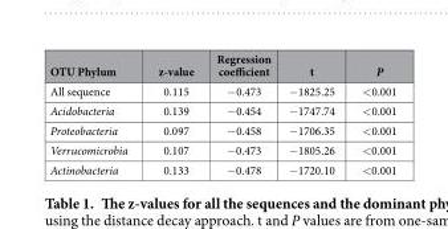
<table><thead><tr><td>OTU Phylum</td><td>z-value</td><td>Regression coefficient</td><td>t</td><td>P</td></tr></thead><tbody><tr><td>All sequence</td><td>0.115</td><td>− 0.473</td><td>− 1825.25</td><td>&lt; 0.001</td></tr><tr><td>Acidobacteria</td><td>0.139</td><td>− 0.454</td><td>− 1747.74</td><td>&lt; 0.001</td></tr><tr><td>Proteobacteria</td><td>0.097</td><td>− 0.458</td><td>− 1706.35</td><td>&lt; 0.001</td></tr><tr><td>Verrucomicrobia</td><td>0.107</td><td>− 0.473</td><td>− 1805.26</td><td>&lt; 0.001</td></tr><tr><td>Actinobacteria</td><td>0.133</td><td>− 0.478</td><td>− 1720.10</td><td>&lt; 0.001</td></tr></tbody></table>